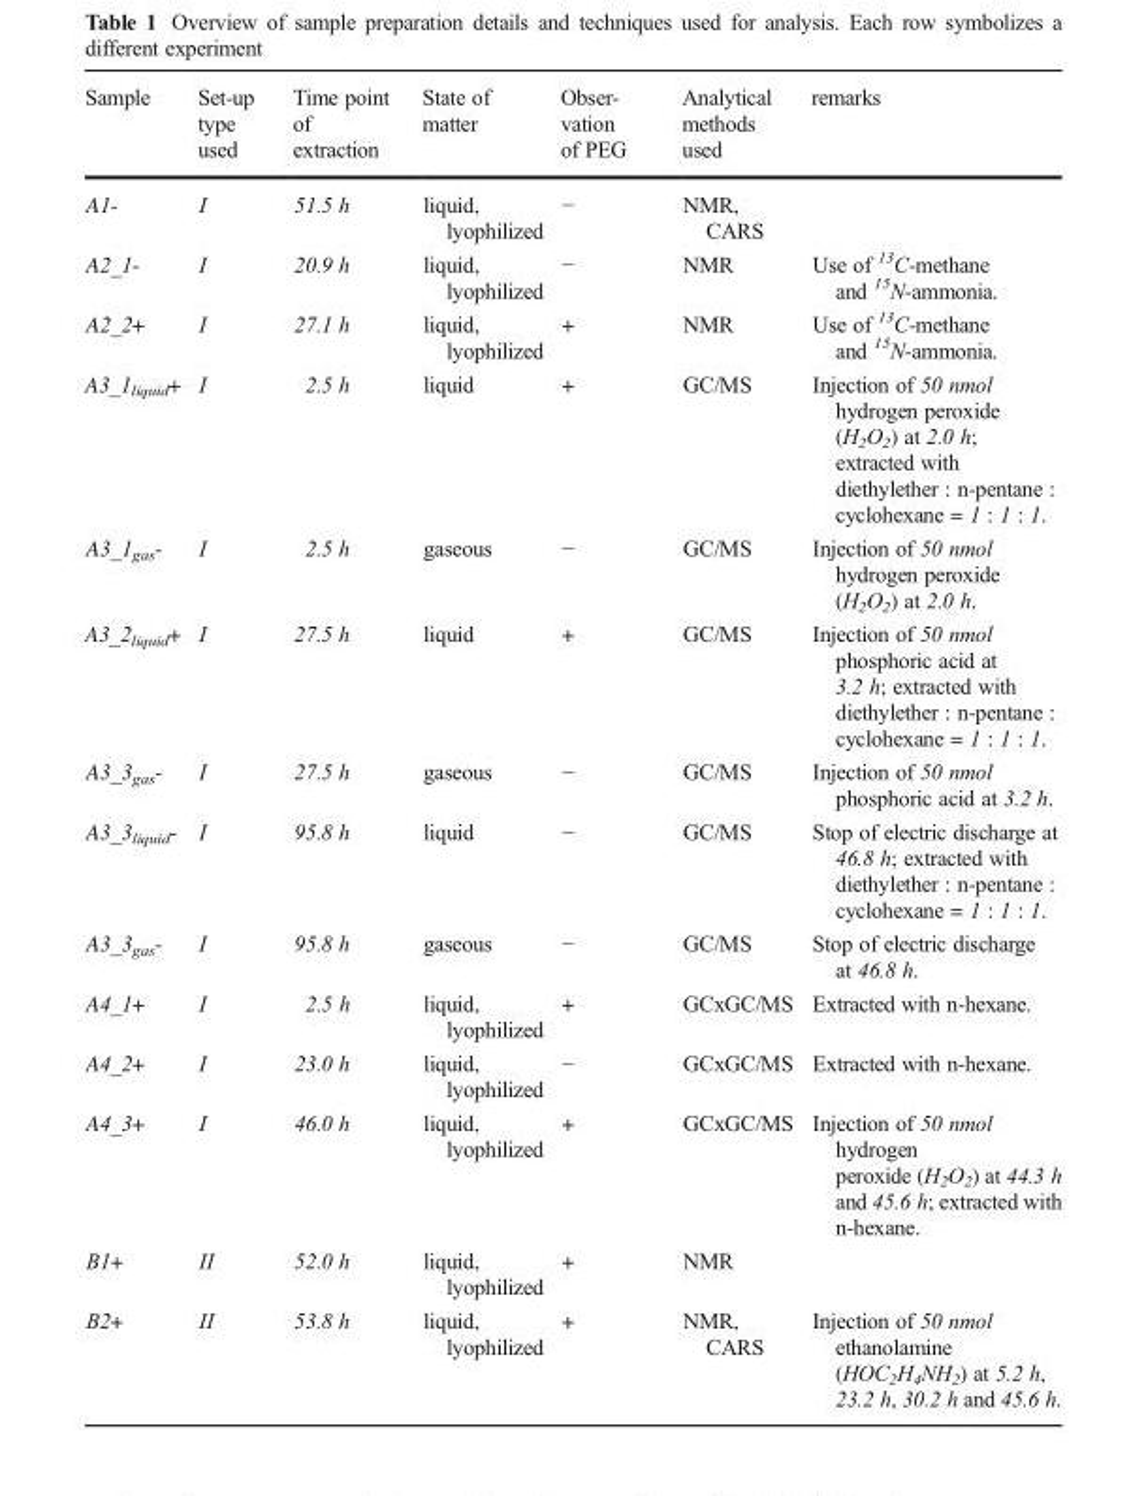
<table><thead><tr><td>Sample</td><td>Set-up type used</td><td>Time point of extraction</td><td>State of matter</td><td>Obser- vation of PEG</td><td>Analytical methods used</td><td>remarks</td></tr></thead><tbody><tr><td>A1-</td><td>I</td><td>51.5 h</td><td>liquid, lyophilized</td><td>−</td><td>NMR, CARS</td><td></td></tr><tr><td>A2_1-</td><td>I</td><td>20.9 h</td><td>liquid, lyophilized</td><td>−</td><td>NMR</td><td>Use of <sup>13</sup>C-methane and <sup>15</sup>N-ammonia.</td></tr><tr><td>A2_2+</td><td>I</td><td>27.1 h</td><td>liquid, lyophilized</td><td>+</td><td>NMR</td><td>Use of <sup>13</sup>C-methane and <sup>15</sup>N-ammonia.</td></tr><tr><td>A3_1<sub>liquid</sub>+</td><td>I</td><td>2.5 h</td><td>liquid</td><td>+</td><td>GC/MS</td><td>Injection of 50 nmol hydrogen peroxide (H<sub>2</sub>O<sub>2</sub>) at 2.0 h; extracted with diethylether : n-pentane : cyclohexane = 1 : 1 : 1.</td></tr><tr><td>A3_1<sub>gas</sub>-</td><td>I</td><td>2.5 h</td><td>gaseous</td><td>−</td><td>GC/MS</td><td>Injection of 50 nmol hydrogen peroxide (H<sub>2</sub>O<sub>2</sub>) at 2.0 h.</td></tr><tr><td>A3_2<sub>liquid</sub>+</td><td>I</td><td>27.5 h</td><td>liquid</td><td>+</td><td>GC/MS</td><td>Injection of 50 nmol phosphoric acid at 3.2 h; extracted with diethylether : n-pentane : cyclohexane = 1 : 1 : 1.</td></tr><tr><td>A3_3<sub>gas</sub>-</td><td>I</td><td>27.5 h</td><td>gaseous</td><td>−</td><td>GC/MS</td><td>Injection of 50 nmol phosphoric acid at 3.2 h.</td></tr><tr><td>A3_3<sub>liquid</sub>-</td><td>I</td><td>95.8 h</td><td>liquid</td><td>−</td><td>GC/MS</td><td>Stop of electric discharge at 46.8 h; extracted with diethylether : n-pentane : cyclohexane = 1 : 1 : 1.</td></tr><tr><td>A3_3<sub>gas</sub>-</td><td>I</td><td>95.8 h</td><td>gaseous</td><td>−</td><td>GC/MS</td><td>Stop of electric discharge at 46.8 h.</td></tr><tr><td>A4_1+</td><td>I</td><td>2.5 h</td><td>liquid, lyophilized</td><td>+</td><td>GCxGC/MS</td><td>Extracted with n-hexane.</td></tr><tr><td>A4_2+</td><td>I</td><td>23.0 h</td><td>liquid, lyophilized</td><td>−</td><td>GCxGC/MS</td><td>Extracted with n-hexane.</td></tr><tr><td>A4_3+</td><td>I</td><td>46.0 h</td><td>liquid, lyophilized</td><td>+</td><td>GCxGC/MS</td><td>Injection of 50 nmol hydrogen peroxide (H<sub>2</sub>O<sub>2</sub>) at 44.3 h and 45.6 h; extracted with n-hexane.</td></tr><tr><td>B1+</td><td>II</td><td>52.0 h</td><td>liquid, lyophilized</td><td>+</td><td>NMR</td><td></td></tr><tr><td>B2+</td><td>II</td><td>53.8 h</td><td>liquid, lyophilized</td><td>+</td><td>NMR, CARS</td><td>Injection of 50 nmol ethanolamine (HOC<sub>2</sub>H<sub>4</sub>NH<sub>2</sub>) at 5.2 h, 23.2 h, 30.2 h and 45.6 h.</td></tr></tbody></table>